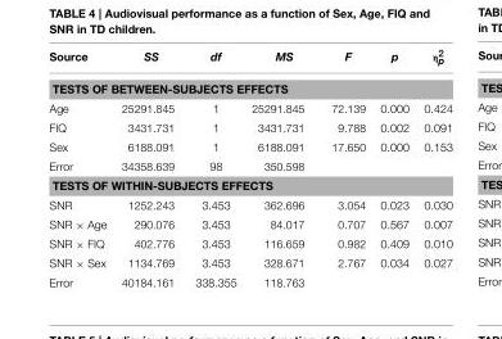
<table><thead><tr><td>Source</td><td>SS</td><td>df</td><td>MS</td><td>F</td><td>p</td><td>η<sup>2</sup><sub>p</sub></td></tr></thead><tbody><tr><td colspan="7">TESTS OF BETWEEN-SUBJECTS EFFECTS</td></tr><tr><td>Age</td><td>25291.845</td><td>1</td><td>25291.845</td><td>72.139</td><td>0.000</td><td>0.424</td></tr><tr><td>FIQ</td><td>3431.731</td><td>1</td><td>3431.731</td><td>9.788</td><td>0.002</td><td>0.091</td></tr><tr><td>Sex</td><td>6188.091</td><td>1</td><td>6188.091</td><td>17.650</td><td>0.000</td><td>0.153</td></tr><tr><td>Error</td><td>34358.639</td><td>98</td><td>350.598</td><td></td><td></td><td></td></tr><tr><td colspan="7">TESTS OF WITHIN-SUBJECTS EFFECTS</td></tr><tr><td>SNR</td><td>1252.243</td><td>3.453</td><td>362.696</td><td>3.054</td><td>0.023</td><td>0.030</td></tr><tr><td>SNR × Age</td><td>290.076</td><td>3.453</td><td>84.017</td><td>0.707</td><td>0.567</td><td>0.007</td></tr><tr><td>SNR × FIQ</td><td>402.776</td><td>3.453</td><td>116.659</td><td>0.982</td><td>0.409</td><td>0.010</td></tr><tr><td>SNR × Sex</td><td>1134.769</td><td>3.453</td><td>328.671</td><td>2.767</td><td>0.034</td><td>0.027</td></tr><tr><td>Error</td><td>40184.161</td><td>338.355</td><td>118.763</td><td></td><td></td><td></td></tr></tbody></table>